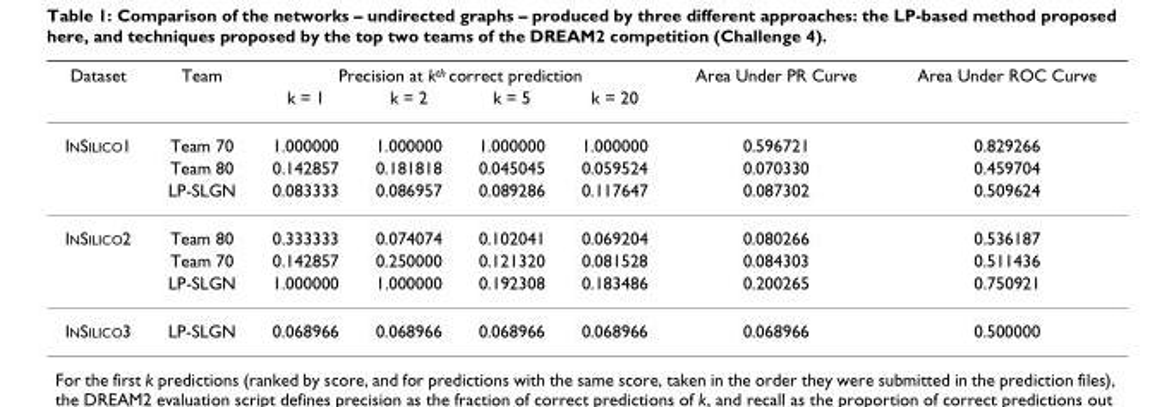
<table><thead><tr><td rowspan="2">Dataset</td><td rowspan="2">Team</td><td colspan="4">Precision at k<sup>th</sup> correct prediction</td><td rowspan="2">Area Under PR Curve</td><td rowspan="2">Area Under ROC Curve</td></tr><tr><td>k = 1</td><td>k = 2</td><td>k = 5</td><td>k = 20</td></tr></thead><tbody><tr><td rowspan="3">INSILICO1</td><td>Team 70</td><td>1.000000</td><td>1.000000</td><td>1.000000</td><td>1.000000</td><td>0.596721</td><td>0.829266</td></tr><tr><td>Team 80</td><td>0.142857</td><td>0.181818</td><td>0.045045</td><td>0.059524</td><td>0.070330</td><td>0.459704</td></tr><tr><td>LP-SLGN</td><td>0.083333</td><td>0.086957</td><td>0.089286</td><td>0.117647</td><td>0.087302</td><td>0.509624</td></tr><tr><td rowspan="3">INSILICO2</td><td>Team 80</td><td>0.333333</td><td>0.074074</td><td>0.102041</td><td>0.069204</td><td>0.080266</td><td>0.536187</td></tr><tr><td>Team 70</td><td>0.142857</td><td>0.250000</td><td>0.121320</td><td>0.081528</td><td>0.084303</td><td>0.511436</td></tr><tr><td>LP-SLGN</td><td>1.000000</td><td>1.000000</td><td>0.192308</td><td>0.183486</td><td>0.200265</td><td>0.750921</td></tr><tr><td>INSILICO3</td><td>LP-SLGN</td><td>0.068966</td><td>0.068966</td><td>0.068966</td><td>0.068966</td><td>0.068966</td><td>0.500000</td></tr></tbody></table>